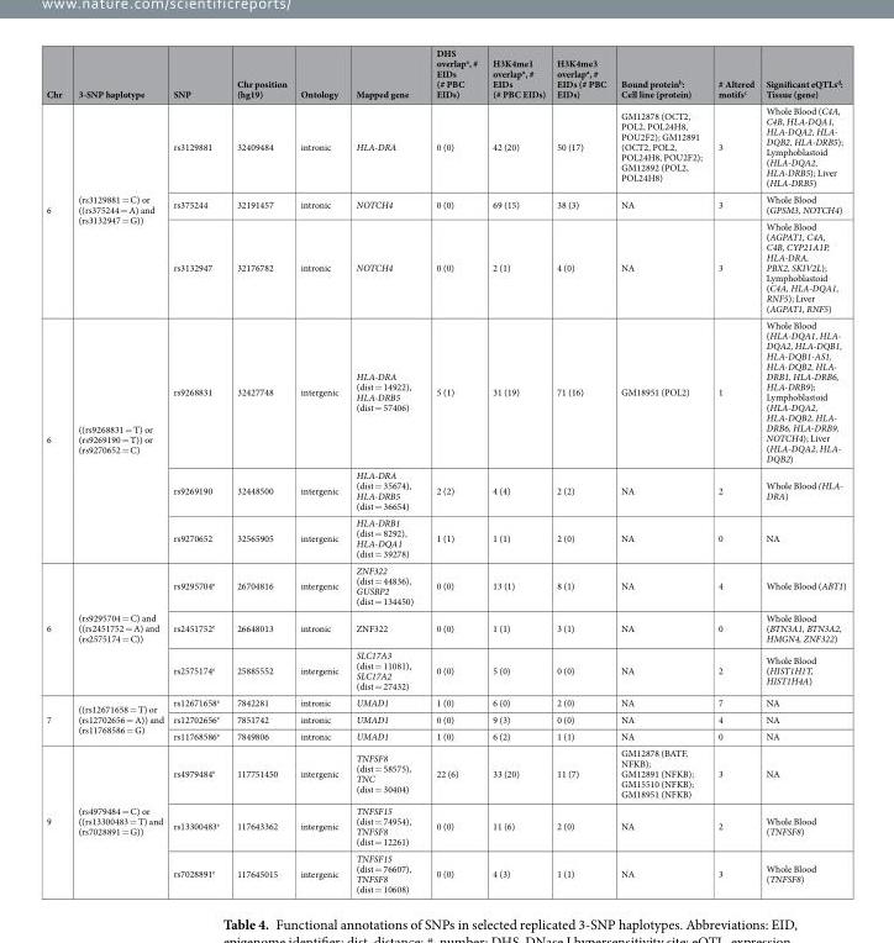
<table><thead><tr><td>Chr</td><td>3-SNP haplotype</td><td>SNP</td><td>Chr position (hg19)</td><td>Ontology</td><td>Mapped gene</td><td>DHS overlap<sup>a</sup>, # EIDs (# PBC EIDs)</td><td>H3K4me1 overlap<sup>a</sup>, # EIDs (# PBC EIDs)</td><td>H3K4me3 overlap<sup>a</sup>, # EIDs (# PBC EIDs)</td><td>Bound protein<sup>b</sup>: Cell line (protein)</td><td># Altered motifs<sup>c</sup></td><td>Significant eQTLs<sup>d</sup>: Tissue (gene)</td></tr></thead><tbody><tr><td rowspan="3">6</td><td rowspan="3">(rs3129881 = C) or ((rs375244 = A) and (rs3132947 = G))</td><td>rs3129881</td><td>32409484</td><td>intronic</td><td>HLA-DRA</td><td>0 (0)</td><td>42 (20)</td><td>50 (17)</td><td>GM12878 (OCT2, POL2, POL24H8, POU2F2); GM12891 (OCT2, POL2, POL24H8, POU2F2); GM12892 (POL2, POL24H8)</td><td>3</td><td>Whole Blood (C4A, C4B, HLA-DQA1, HLA-DQA2, HLA- DQB2, HLA-DRB5); Lymphoblastoid (HLA-DQA2, HLA-DRB5); Liver (HLA-DRB5)</td></tr><tr><td>rs375244</td><td>32191457</td><td>intronic</td><td>NOTCH4</td><td>0 (0)</td><td>69 (15)</td><td>38 (3)</td><td>NA</td><td>3</td><td>Whole Blood (GPSM3, NOTCH4)</td></tr><tr><td>rs3132947</td><td>32176782</td><td>intronic</td><td>NOTCH4</td><td>0 (0)</td><td>2 (1)</td><td>4 (0)</td><td>NA</td><td>3</td><td>Whole Blood (AGPAT1, C4A, C4B, CYP21A1P, HLA-DRA, PBX2, SKIV2L); Lymphoblastoid (C4A, HLA-DQA1, RNF5); Liver (AGPAT1, RNF5)</td></tr><tr><td rowspan="3">6</td><td rowspan="3">((rs9268831 = T) or (rs9269190 = T)) or (rs9270652 = C)</td><td>rs9268831</td><td>32427748</td><td>intergenic</td><td>HLA-DRA (dist = 14922), HLA-DRB5 (dist = 57406)</td><td>5 (1)</td><td>31 (19)</td><td>71 (16)</td><td>GM18951 (POL2)</td><td>1</td><td>Whole Blood (HLA-DQA1, HLA- DQA2, HLA-DQB1, HLA-DQB1-AS1, HLA-DQB2, HLA- DRB1, HLA-DRB6, HLA-DRB9); Lymphoblastoid (HLA-DQA2, HLA-DQB2, HLA- DRB6, HLA-DRB9, NOTCH4); Liver (HLA-DQA2, HLA- DQB2)</td></tr><tr><td>rs9269190</td><td>32448500</td><td>intergenic</td><td>HLA-DRA (dist = 35674), HLA-DRB5 (dist = 36654)</td><td>2 (2)</td><td>4 (4)</td><td>2 (2)</td><td>NA</td><td>2</td><td>Whole Blood (HLA- DRA)</td></tr><tr><td>rs9270652</td><td>32565905</td><td>intergenic</td><td>HLA-DRB1 (dist = 8292), HLA-DQA1 (dist = 39278)</td><td>1 (1)</td><td>1 (1)</td><td>2 (0)</td><td>NA</td><td>0</td><td>NA</td></tr><tr><td rowspan="3">6</td><td rowspan="3">(rs9295704 = C) and ((rs2451752 = A) and (rs2575174 = C))</td><td>rs9295704<sup>e</sup></td><td>26704816</td><td>intergenic</td><td>ZNF322 (dist = 44836), GUSBP2 (dist = 134450)</td><td>0 (0)</td><td>13 (1)</td><td>8 (1)</td><td>NA</td><td>4</td><td>Whole Blood (ABT1)</td></tr><tr><td>rs2451752<sup>e</sup></td><td>26648013</td><td>intronic</td><td>ZNF322</td><td>0 (0)</td><td>1 (1)</td><td>3 (1)</td><td>NA</td><td>0</td><td>Whole Blood (BTN3A1, BTN3A2, HMGN4, ZNF322)</td></tr><tr><td>rs2575174<sup>e</sup></td><td>25885552</td><td>intergenic</td><td>SLC17A3 (dist = 11081), SLC17A2 (dist = 27432)</td><td>0 (0)</td><td>5 (0)</td><td>0 (0)</td><td>NA</td><td>2</td><td>Whole Blood (HIST1H1T, HIST1H4A)</td></tr><tr><td rowspan="3">7</td><td rowspan="3">((rs12671658 = T) or (rs12702656 = A)) and (rs11768586 = G)</td><td>rs12671658<sup>e</sup></td><td>7842281</td><td>intronic</td><td>UMAD1</td><td>1 (0)</td><td>6 (0)</td><td>2 (0)</td><td>NA</td><td>7</td><td>NA</td></tr><tr><td>rs12702656<sup>e</sup></td><td>7851742</td><td>intronic</td><td>UMAD1</td><td>0 (0)</td><td>9 (3)</td><td>0 (0)</td><td>NA</td><td>4</td><td>NA</td></tr><tr><td>rs11768586<sup>e</sup></td><td>7849806</td><td>intronic</td><td>UMAD1</td><td>1 (0)</td><td>6 (2)</td><td>1 (1)</td><td>NA</td><td>0</td><td>NA</td></tr><tr><td rowspan="3">9</td><td rowspan="3">(rs4979484 = C) or ((rs13300483 = T) and (rs7028891 = G))</td><td>rs4979484<sup>e</sup></td><td>117751450</td><td>intergenic</td><td>TNFSF8 (dist = 58575), TNC (dist = 30404)</td><td>22 (6)</td><td>33 (20)</td><td>11 (7)</td><td>GM12878 (BATF, NFKB); GM12891 (NFKB); GM15510 (NFKB); GM18951 (NFKB)</td><td>3</td><td>NA</td></tr><tr><td>rs13300483<sup>e</sup></td><td>117643362</td><td>intergenic</td><td>TNFSF15 (dist = 74954), TNFSF8 (dist = 12261)</td><td>0 (0)</td><td>11 (6)</td><td>2 (0)</td><td>NA</td><td>2</td><td>Whole Blood (TNFSF8)</td></tr><tr><td>rs7028891<sup>e</sup></td><td>117645015</td><td>intergenic</td><td>TNFSF15 (dist = 76607), TNFSF8 (dist = 10608)</td><td>0 (0)</td><td>4 (3)</td><td>1 (1)</td><td>NA</td><td>3</td><td>Whole Blood (TNFSF8)</td></tr></tbody></table>